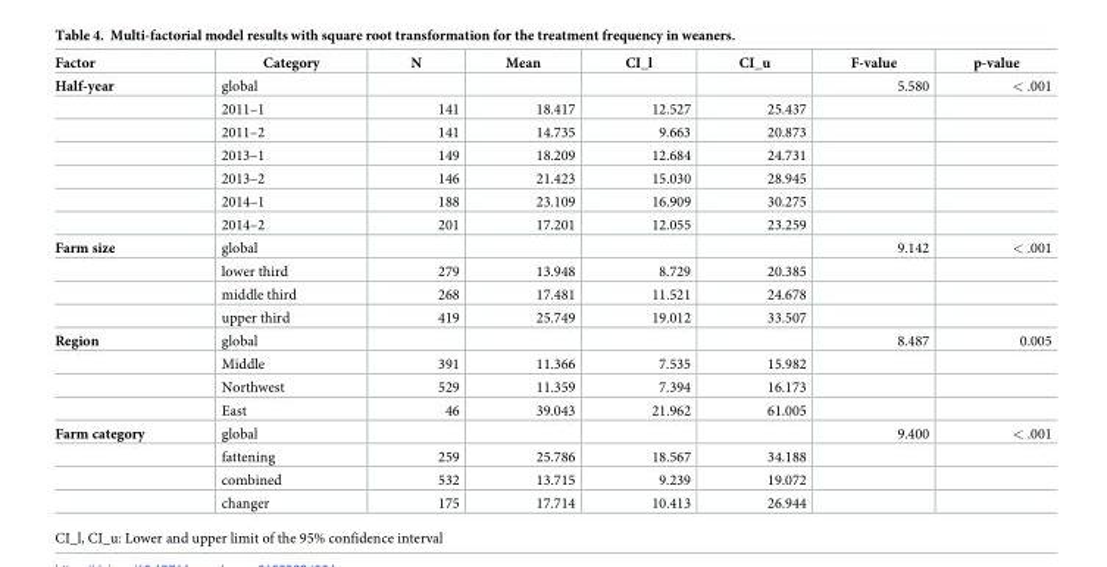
<table><thead><tr><td>Factor</td><td>Category</td><td>N</td><td>Mean</td><td>CI_l</td><td>CI_u</td><td>F-value</td><td>p-value</td></tr></thead><tbody><tr><td rowspan="7">Half-year</td><td>global</td><td></td><td></td><td></td><td></td><td>5.580</td><td>&lt; .001</td></tr><tr><td>2011–1</td><td>141</td><td>18.417</td><td>12.527</td><td>25.437</td><td></td><td></td></tr><tr><td>2011–2</td><td>141</td><td>14.735</td><td>9.663</td><td>20.873</td><td></td><td></td></tr><tr><td>2013–1</td><td>149</td><td>18.209</td><td>12.684</td><td>24.731</td><td></td><td></td></tr><tr><td>2013–2</td><td>146</td><td>21.423</td><td>15.030</td><td>28.945</td><td></td><td></td></tr><tr><td>2014–1</td><td>188</td><td>23.109</td><td>16.909</td><td>30.275</td><td></td><td></td></tr><tr><td>2014–2</td><td>201</td><td>17.201</td><td>12.055</td><td>23.259</td><td></td><td></td></tr><tr><td rowspan="4">Farm size</td><td>global</td><td></td><td></td><td></td><td></td><td>9.142</td><td>&lt; .001</td></tr><tr><td>lower third</td><td>279</td><td>13.948</td><td>8.729</td><td>20.385</td><td></td><td></td></tr><tr><td>middle third</td><td>268</td><td>17.481</td><td>11.521</td><td>24.678</td><td></td><td></td></tr><tr><td>upper third</td><td>419</td><td>25.749</td><td>19.012</td><td>33.507</td><td></td><td></td></tr><tr><td rowspan="4">Region</td><td>global</td><td></td><td></td><td></td><td></td><td>8.487</td><td>0.005</td></tr><tr><td>Middle</td><td>391</td><td>11.366</td><td>7.535</td><td>15.982</td><td></td><td></td></tr><tr><td>Northwest</td><td>529</td><td>11.359</td><td>7.394</td><td>16.173</td><td></td><td></td></tr><tr><td>East</td><td>46</td><td>39.043</td><td>21.962</td><td>61.005</td><td></td><td></td></tr><tr><td rowspan="4">Farm category</td><td>global</td><td></td><td></td><td></td><td></td><td>9.400</td><td>&lt; .001</td></tr><tr><td>fattening</td><td>259</td><td>25.786</td><td>18.567</td><td>34.188</td><td></td><td></td></tr><tr><td>combined</td><td>532</td><td>13.715</td><td>9.239</td><td>19.072</td><td></td><td></td></tr><tr><td>changer</td><td>175</td><td>17.714</td><td>10.413</td><td>26.944</td><td></td><td></td></tr></tbody></table>